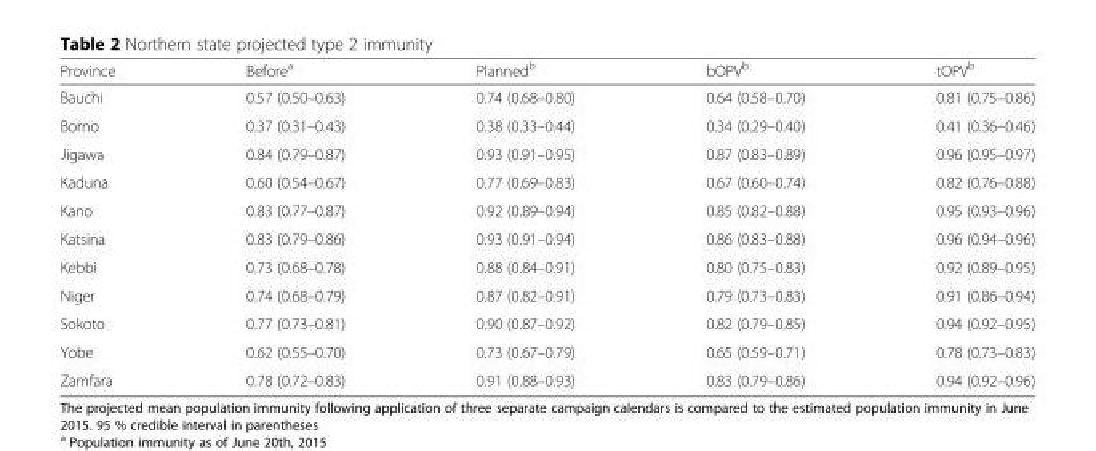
<table><thead><tr><td>Province</td><td>Before<sup>a</sup></td><td>Planned<sup>b</sup></td><td>bOPV<sup>b</sup></td><td>tOPV<sup>b</sup></td></tr></thead><tbody><tr><td>Bauchi</td><td>0.57 (0.50–0.63)</td><td>0.74 (0.68–0.80)</td><td>0.64 (0.58–0.70)</td><td>0.81 (0.75–0.86)</td></tr><tr><td>Borno</td><td>0.37 (0.31–0.43)</td><td>0.38 (0.33–0.44)</td><td>0.34 (0.29–0.40)</td><td>0.41 (0.36–0.46)</td></tr><tr><td>Jigawa</td><td>0.84 (0.79–0.87)</td><td>0.93 (0.91–0.95)</td><td>0.87 (0.83–0.89)</td><td>0.96 (0.95–0.97)</td></tr><tr><td>Kaduna</td><td>0.60 (0.54–0.67)</td><td>0.77 (0.69–0.83)</td><td>0.67 (0.60–0.74)</td><td>0.82 (0.76–0.88)</td></tr><tr><td>Kano</td><td>0.83 (0.77–0.87)</td><td>0.92 (0.89–0.94)</td><td>0.85 (0.82–0.88)</td><td>0.95 (0.93–0.96)</td></tr><tr><td>Katsina</td><td>0.83 (0.79–0.86)</td><td>0.93 (0.91–0.94)</td><td>0.86 (0.83–0.88)</td><td>0.96 (0.94–0.96)</td></tr><tr><td>Kebbi</td><td>0.73 (0.68–0.78)</td><td>0.88 (0.84–0.91)</td><td>0.80 (0.75–0.83)</td><td>0.92 (0.89–0.95)</td></tr><tr><td>Niger</td><td>0.74 (0.68–0.79)</td><td>0.87 (0.82–0.91)</td><td>0.79 (0.73–0.83)</td><td>0.91 (0.86–0.94)</td></tr><tr><td>Sokoto</td><td>0.77 (0.73–0.81)</td><td>0.90 (0.87–0.92)</td><td>0.82 (0.79–0.85)</td><td>0.94 (0.92–0.95)</td></tr><tr><td>Yobe</td><td>0.62 (0.55–0.70)</td><td>0.73 (0.67–0.79)</td><td>0.65 (0.59–0.71)</td><td>0.78 (0.73–0.83)</td></tr><tr><td>Zamfara</td><td>0.78 (0.72–0.83)</td><td>0.91 (0.88–0.93)</td><td>0.83 (0.79–0.86)</td><td>0.94 (0.92–0.96)</td></tr></tbody></table>